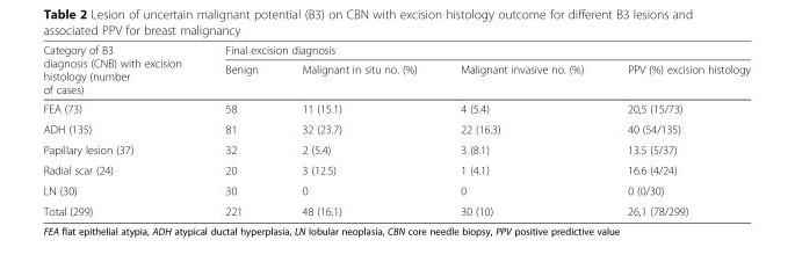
<table><thead><tr><td rowspan="2">Category of B3 diagnosis (CNB) with excision histology (number of cases)</td><td colspan="4">Final excision diagnosis</td></tr><tr><td>Benign</td><td>Malignant in situ no. (%)</td><td>Malignant invasive no. (%)</td><td>PPV (%) excision histology</td></tr></thead><tbody><tr><td>FEA (73)</td><td>58</td><td>11 (15.1)</td><td>4 (5.4)</td><td>20,5 (15/73)</td></tr><tr><td>ADH (135)</td><td>81</td><td>32 (23.7)</td><td>22 (16.3)</td><td>40 (54/135)</td></tr><tr><td>Papillary lesion (37)</td><td>32</td><td>2 (5.4)</td><td>3 (8.1)</td><td>13.5 (5/37)</td></tr><tr><td>Radial scar (24)</td><td>20</td><td>3 (12.5)</td><td>1 (4.1)</td><td>16.6 (4/24)</td></tr><tr><td>LN (30)</td><td>30</td><td>0</td><td>0</td><td>0 (0/30)</td></tr><tr><td>Total (299)</td><td>221</td><td>48 (16.1)</td><td>30 (10)</td><td>26,1 (78/299)</td></tr></tbody></table>